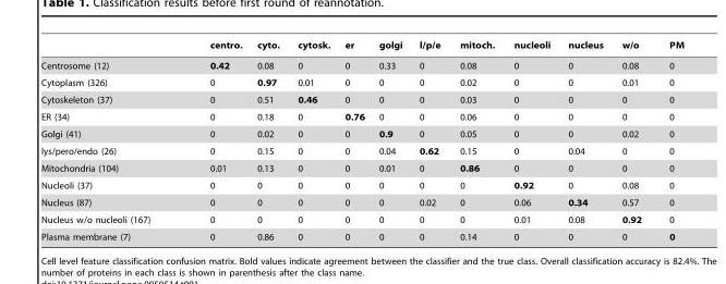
<table><thead><tr><td></td><td>centro.</td><td>cyto.</td><td>cytosk.</td><td>er</td><td>golgi</td><td>l/p/e</td><td>mitoch.</td><td>nucleoli</td><td>nucleus</td><td>w/o</td><td>PM</td></tr></thead><tbody><tr><td>Centrosome (12)</td><td>0.42</td><td>0.08</td><td>0</td><td>0</td><td>0.33</td><td>0</td><td>0.08</td><td>0</td><td>0</td><td>0.08</td><td>0</td></tr><tr><td>Cytoplasm (326)</td><td>0</td><td>0.97</td><td>0.01</td><td>0</td><td>0</td><td>0</td><td>0.02</td><td>0</td><td>0</td><td>0.01</td><td>0</td></tr><tr><td>Cytoskeleton (37)</td><td>0</td><td>0.51</td><td>0.46</td><td>0</td><td>0</td><td>0</td><td>0.03</td><td>0</td><td>0</td><td>0</td><td>0</td></tr><tr><td>ER (34)</td><td>0</td><td>0.18</td><td>0</td><td>0.76</td><td>0</td><td>0</td><td>0.06</td><td>0</td><td>0</td><td>0</td><td>0</td></tr><tr><td>Golgi (41)</td><td>0</td><td>0.02</td><td>0</td><td>0</td><td>0.9</td><td>0</td><td>0.05</td><td>0</td><td>0</td><td>0.02</td><td>0</td></tr><tr><td>lys/pero/endo (26)</td><td>0</td><td>0.15</td><td>0</td><td>0</td><td>0.04</td><td>0.62</td><td>0.15</td><td>0</td><td>0.04</td><td>0</td><td>0</td></tr><tr><td>Mitochondria (104)</td><td>0.01</td><td>0.13</td><td>0</td><td>0</td><td>0.01</td><td>0</td><td>0.86</td><td>0</td><td>0</td><td>0</td><td>0</td></tr><tr><td>Nucleoli (37)</td><td>0</td><td>0</td><td>0</td><td>0</td><td>0</td><td>0</td><td>0</td><td>0.92</td><td>0</td><td>0.08</td><td>0</td></tr><tr><td>Nucleus (87)</td><td>0</td><td>0</td><td>0</td><td>0</td><td>0</td><td>0.02</td><td>0</td><td>0.06</td><td>0.34</td><td>0.57</td><td>0</td></tr><tr><td>Nucleus w/o nucleoli (167)</td><td>0</td><td>0</td><td>0</td><td>0</td><td>0</td><td>0</td><td>0</td><td>0.01</td><td>0.08</td><td>0.92</td><td>0</td></tr><tr><td>Plasma membrane (7)</td><td>0</td><td>0.86</td><td>0</td><td>0</td><td>0</td><td>0</td><td>0.14</td><td>0</td><td>0</td><td>0</td><td>0</td></tr></tbody></table>